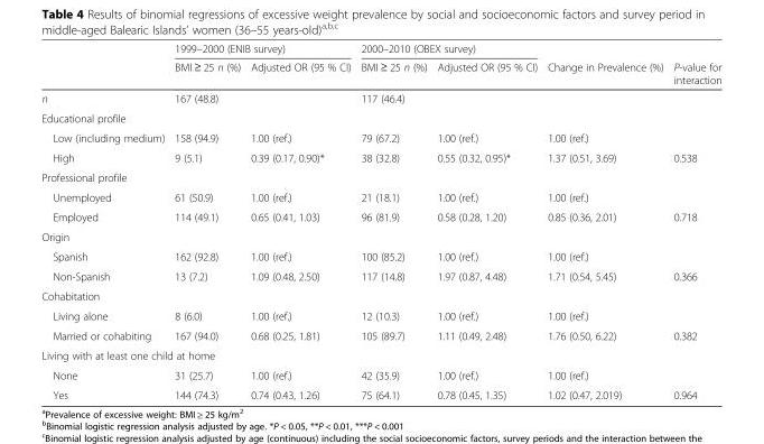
<table><thead><tr><td rowspan="2"></td><td colspan="2">1999–2000 (ENIB survey)</td><td colspan="2">2000–2010 (OBEX survey)</td><td rowspan="2">Change in Prevalence (%)</td><td rowspan="2">P-value for interaction</td></tr><tr><td>BMI ≥ 25 n (%)</td><td>Adjusted OR (95 % CI)</td><td>BMI ≥ 25 n (%)</td><td>Adjusted OR (95 % CI)</td></tr></thead><tbody><tr><td>n</td><td>167 (48.8)</td><td></td><td>117 (46.4)</td><td></td><td></td><td></td></tr><tr><td colspan="7">Educational profile</td></tr><tr><td>Low (including medium)</td><td>158 (94.9)</td><td>1.00 (ref.)</td><td>79 (67.2)</td><td>1.00 (ref.)</td><td>1.00 (ref.)</td><td></td></tr><tr><td>High</td><td>9 (5.1)</td><td>0.39 (0.17, 0.90)*</td><td>38 (32.8)</td><td>0.55 (0.32, 0.95)*</td><td>1.37 (0.51, 3.69)</td><td>0.538</td></tr><tr><td colspan="7">Professional profile</td></tr><tr><td>Unemployed</td><td>61 (50.9)</td><td>1.00 (ref.)</td><td>21 (18.1)</td><td>1.00 (ref.)</td><td>1.00 (ref.)</td><td></td></tr><tr><td>Employed</td><td>114 (49.1)</td><td>0.65 (0.41, 1.03)</td><td>96 (81.9)</td><td>0.58 (0.28, 1.20)</td><td>0.85 (0.36, 2.01)</td><td>0.718</td></tr><tr><td colspan="7">Origin</td></tr><tr><td>Spanish</td><td>162 (92.8)</td><td>1.00 (ref.)</td><td>100 (85.2)</td><td>1.00 (ref.)</td><td>1.00 (ref.)</td><td></td></tr><tr><td>Non-Spanish</td><td>13 (7.2)</td><td>1.09 (0.48, 2.50)</td><td>117 (14.8)</td><td>1.97 (0.87, 4.48)</td><td>1.71 (0.54, 5.45)</td><td>0.366</td></tr><tr><td colspan="7">Cohabitation</td></tr><tr><td>Living alone</td><td>8 (6.0)</td><td>1.00 (ref.)</td><td>12 (10.3)</td><td>1.00 (ref.)</td><td>1.00 (ref.)</td><td></td></tr><tr><td>Married or cohabiting</td><td>167 (94.0)</td><td>0.68 (0.25, 1.81)</td><td>105 (89.7)</td><td>1.11 (0.49, 2.48)</td><td>1.76 (0.50, 6.22)</td><td>0.382</td></tr><tr><td colspan="7">Living with at least one child at home</td></tr><tr><td>None</td><td>31 (25.7)</td><td>1.00 (ref.)</td><td>42 (35.9)</td><td>1.00 (ref.)</td><td>1.00 (ref.)</td><td></td></tr><tr><td>Yes</td><td>144 (74.3)</td><td>0.74 (0.43, 1.26)</td><td>75 (64.1)</td><td>0.78 (0.45, 1.35)</td><td>1.02 (0.47, 2.019)</td><td>0.964</td></tr></tbody></table>